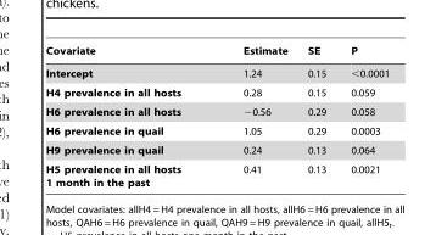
<table><thead><tr><td>Covariate</td><td>Estimate</td><td>SE</td><td>P</td></tr></thead><tbody><tr><td>Intercept</td><td>1.24</td><td>0.15</td><td>&lt;0.0001</td></tr><tr><td>H4 prevalence in all hosts</td><td>0.28</td><td>0.15</td><td>0.059</td></tr><tr><td>H6 prevalence in all hosts</td><td>−0.56</td><td>0.29</td><td>0.058</td></tr><tr><td>H6 prevalence in quail</td><td>1.05</td><td>0.29</td><td>0.0003</td></tr><tr><td>H9 prevalence in quail</td><td>0.24</td><td>0.13</td><td>0.064</td></tr><tr><td>H5 prevalence in all hosts 1 month in the past</td><td>0.41</td><td>0.13</td><td>0.0021</td></tr></tbody></table>